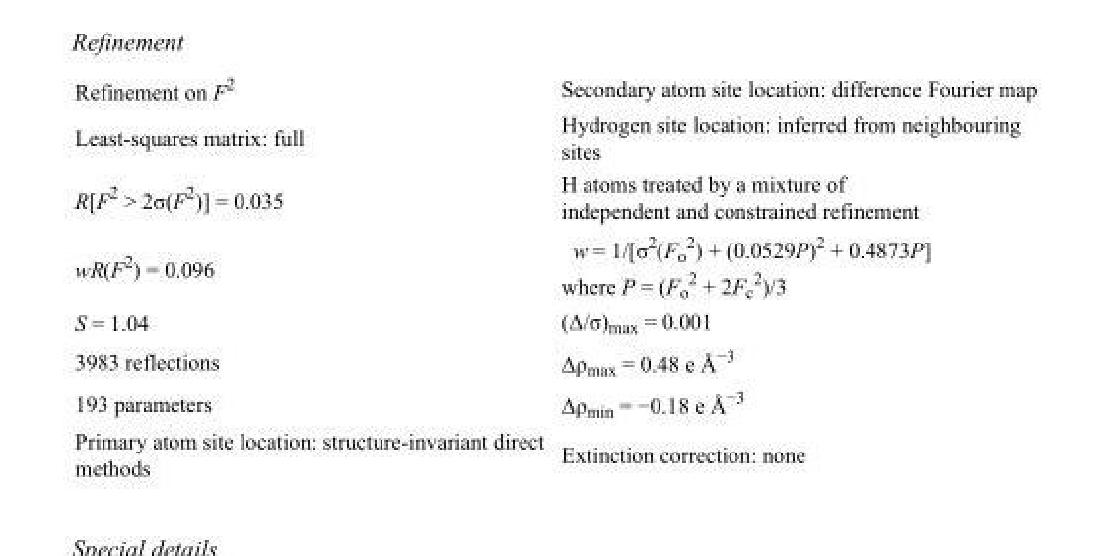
<table><tbody><tr><td>Refinement on F<sup>2</sup></td><td>Secondary atom site location: difference Fourier map</td></tr><tr><td>Least-squares matrix: full</td><td>Hydrogen site location: inferred from neighbouring sites</td></tr><tr><td>R[F<sup>2</sup> &gt; 2σ(F<sup>2</sup>)] = 0.035</td><td>H atoms treated by a mixture of independent and constrained refinement</td></tr><tr><td>wR(F<sup>2</sup>) = 0.096</td><td>w = 1/[σ<sup>2</sup>(F<sub>o</sub> <sup>2</sup>) + (0.0529P)<sup>2</sup> + 0.4873P] where P = (F<sub>o</sub> <sup>2</sup> + 2F<sub>c</sub> <sup>2</sup>)/3</td></tr><tr><td>S = 1.04</td><td>(Δ/σ)<sub>max</sub> = 0.001</td></tr><tr><td>3983 reflections</td><td>Δρ<sub>max</sub> = 0.48 e Å<sup>−3</sup></td></tr><tr><td>193 parameters</td><td>Δρ<sub>min</sub> = −0.18 e Å<sup>−3</sup></td></tr><tr><td>Primary atom site location: structure-invariant direct methods</td><td>Extinction correction: none</td></tr></tbody></table>